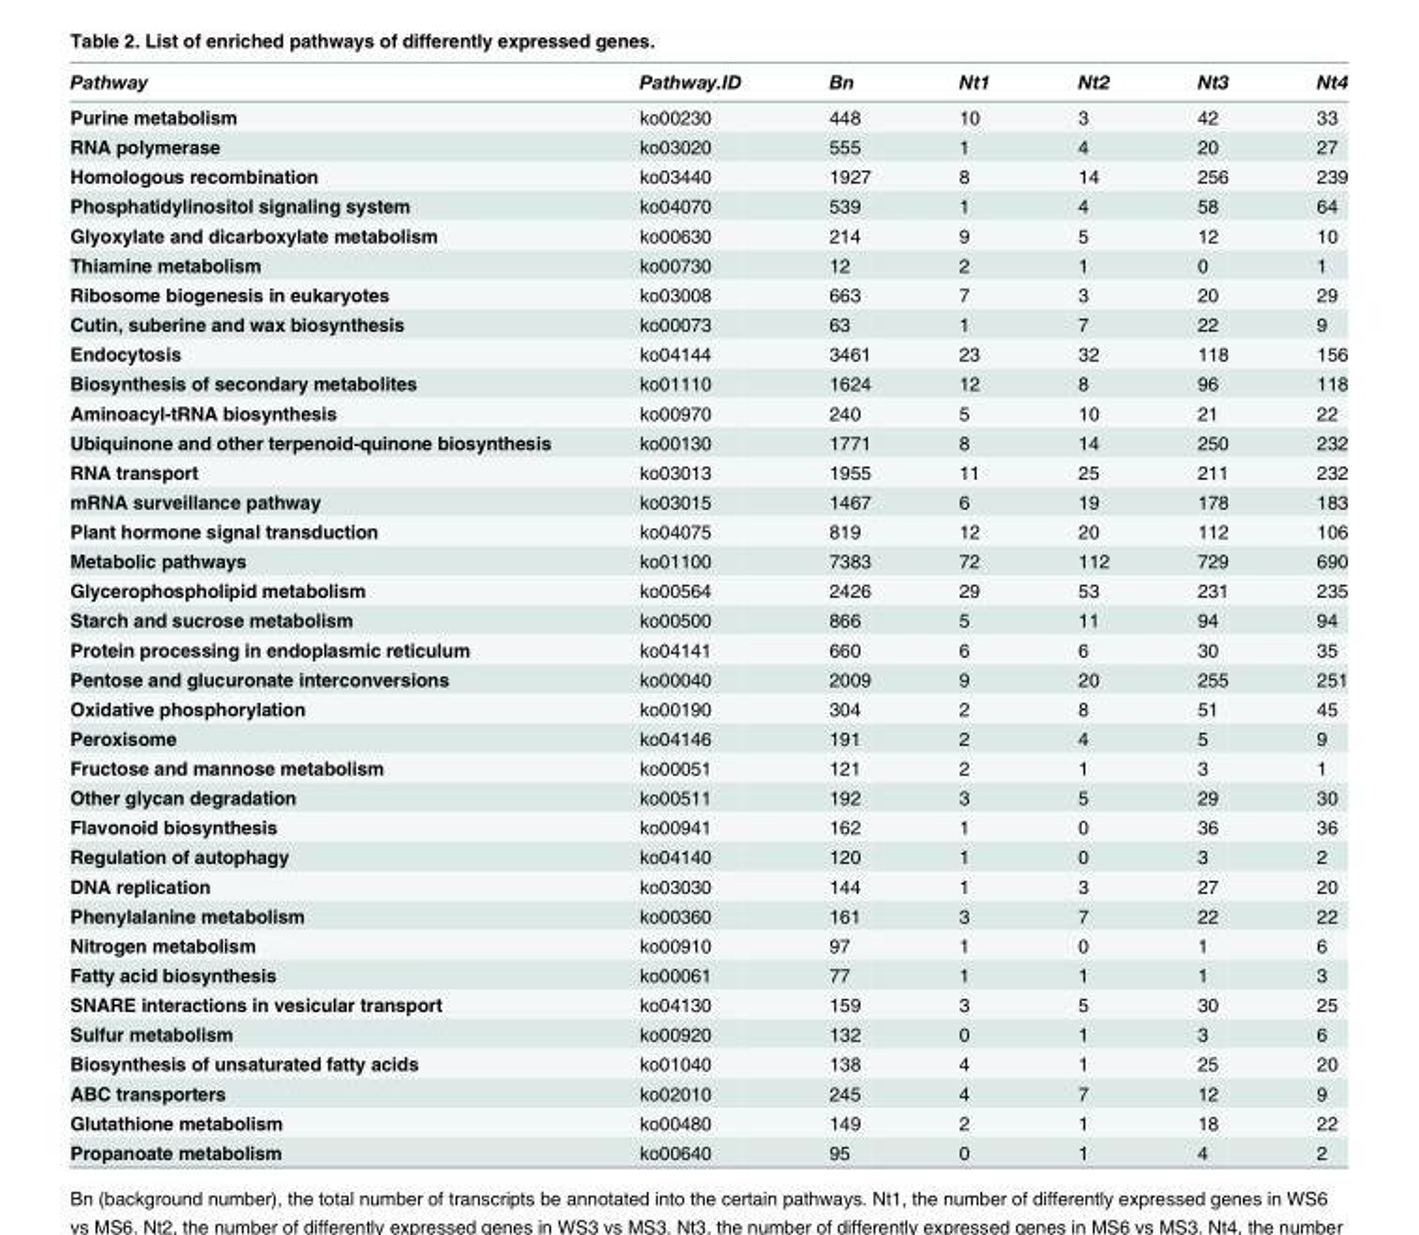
<table><thead><tr><td>Pathway</td><td>Pathway.ID</td><td>Bn</td><td>Nt1</td><td>Nt2</td><td>Nt3</td><td>Nt4</td></tr></thead><tbody><tr><td>Purine metabolism</td><td>ko00230</td><td>448</td><td>10</td><td>3</td><td>42</td><td>33</td></tr><tr><td>RNA polymerase</td><td>ko03020</td><td>555</td><td>1</td><td>4</td><td>20</td><td>27</td></tr><tr><td>Homologous recombination</td><td>ko03440</td><td>1927</td><td>8</td><td>14</td><td>256</td><td>239</td></tr><tr><td>Phosphatidylinositol signaling system</td><td>ko04070</td><td>539</td><td>1</td><td>4</td><td>58</td><td>64</td></tr><tr><td>Glyoxylate and dicarboxylate metabolism</td><td>ko00630</td><td>214</td><td>9</td><td>5</td><td>12</td><td>10</td></tr><tr><td>Thiamine metabolism</td><td>ko00730</td><td>12</td><td>2</td><td>1</td><td>0</td><td>1</td></tr><tr><td>Ribosome biogenesis in eukaryotes</td><td>ko03008</td><td>663</td><td>7</td><td>3</td><td>20</td><td>29</td></tr><tr><td>Cutin, suberine and wax biosynthesis</td><td>ko00073</td><td>63</td><td>1</td><td>7</td><td>22</td><td>9</td></tr><tr><td>Endocytosis</td><td>ko04144</td><td>3461</td><td>23</td><td>32</td><td>118</td><td>156</td></tr><tr><td>Biosynthesis of secondary metabolites</td><td>ko01110</td><td>1624</td><td>12</td><td>8</td><td>96</td><td>118</td></tr><tr><td>Aminoacyl-tRNA biosynthesis</td><td>ko00970</td><td>240</td><td>5</td><td>10</td><td>21</td><td>22</td></tr><tr><td>Ubiquinone and other terpenoid-quinone biosynthesis</td><td>ko00130</td><td>1771</td><td>8</td><td>14</td><td>250</td><td>232</td></tr><tr><td>RNA transport</td><td>ko03013</td><td>1955</td><td>11</td><td>25</td><td>211</td><td>232</td></tr><tr><td>mRNA surveillance pathway</td><td>ko03015</td><td>1467</td><td>6</td><td>19</td><td>178</td><td>183</td></tr><tr><td>Plant hormone signal transduction</td><td>ko04075</td><td>819</td><td>12</td><td>20</td><td>112</td><td>106</td></tr><tr><td>Metabolic pathways</td><td>ko01100</td><td>7383</td><td>72</td><td>112</td><td>729</td><td>690</td></tr><tr><td>Glycerophospholipid metabolism</td><td>ko00564</td><td>2426</td><td>29</td><td>53</td><td>231</td><td>235</td></tr><tr><td>Starch and sucrose metabolism</td><td>ko00500</td><td>866</td><td>5</td><td>11</td><td>94</td><td>94</td></tr><tr><td>Protein processing in endoplasmic reticulum</td><td>ko04141</td><td>660</td><td>6</td><td>6</td><td>30</td><td>35</td></tr><tr><td>Pentose and glucuronate interconversions</td><td>ko00040</td><td>2009</td><td>9</td><td>20</td><td>255</td><td>251</td></tr><tr><td>Oxidative phosphorylation</td><td>ko00190</td><td>304</td><td>2</td><td>8</td><td>51</td><td>45</td></tr><tr><td>Peroxisome</td><td>ko04146</td><td>191</td><td>2</td><td>4</td><td>5</td><td>9</td></tr><tr><td>Fructose and mannose metabolism</td><td>ko00051</td><td>121</td><td>2</td><td>1</td><td>3</td><td>1</td></tr><tr><td>Other glycan degradation</td><td>ko00511</td><td>192</td><td>3</td><td>5</td><td>29</td><td>30</td></tr><tr><td>Flavonoid biosynthesis</td><td>ko00941</td><td>162</td><td>1</td><td>0</td><td>36</td><td>36</td></tr><tr><td>Regulation of autophagy</td><td>ko04140</td><td>120</td><td>1</td><td>0</td><td>3</td><td>2</td></tr><tr><td>DNA replication</td><td>ko03030</td><td>144</td><td>1</td><td>3</td><td>27</td><td>20</td></tr><tr><td>Phenylalanine metabolism</td><td>ko00360</td><td>161</td><td>3</td><td>7</td><td>22</td><td>22</td></tr><tr><td>Nitrogen metabolism</td><td>ko00910</td><td>97</td><td>1</td><td>0</td><td>1</td><td>6</td></tr><tr><td>Fatty acid biosynthesis</td><td>ko00061</td><td>77</td><td>1</td><td>1</td><td>1</td><td>3</td></tr><tr><td>SNARE interactions in vesicular transport</td><td>ko04130</td><td>159</td><td>3</td><td>5</td><td>30</td><td>25</td></tr><tr><td>Sulfur metabolism</td><td>ko00920</td><td>132</td><td>0</td><td>1</td><td>3</td><td>6</td></tr><tr><td>Biosynthesis of unsaturated fatty acids</td><td>ko01040</td><td>138</td><td>4</td><td>1</td><td>25</td><td>20</td></tr><tr><td>ABC transporters</td><td>ko02010</td><td>245</td><td>4</td><td>7</td><td>12</td><td>9</td></tr><tr><td>Glutathione metabolism</td><td>ko00480</td><td>149</td><td>2</td><td>1</td><td>18</td><td>22</td></tr><tr><td>Propanoate metabolism</td><td>ko00640</td><td>95</td><td>0</td><td>1</td><td>4</td><td>2</td></tr></tbody></table>